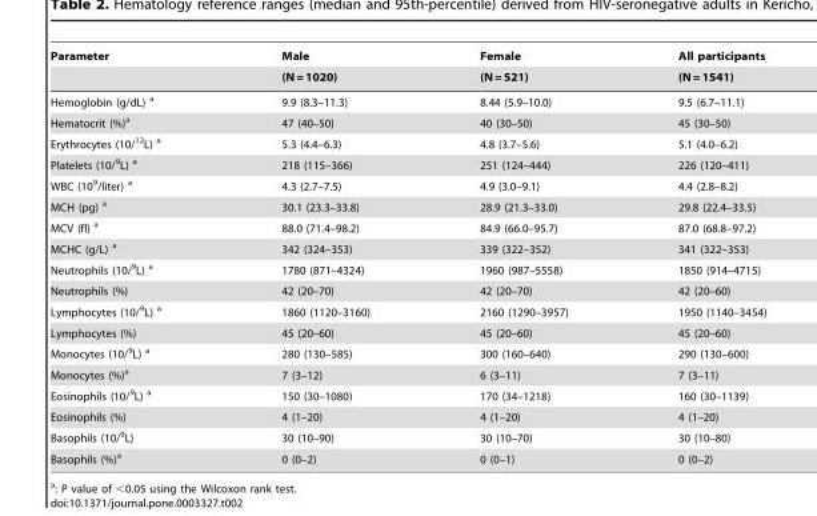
<table><thead><tr><td rowspan="2">Parameter</td><td rowspan="2">Male (N = 1020)</td><td rowspan="2">Female (N = 521)</td><td rowspan="2">All participants (N = 1541)</td></tr><tr></tr></thead><tbody><tr><td>Hemoglobin (g/dL) a</td><td>9.9 (8.3–11.3)</td><td>8.44 (5.9–10.0)</td><td>9.5 (6.7–11.1)</td></tr><tr><td>Hematocrit (%)<sup>a</sup></td><td>47 (40–50)</td><td>40 (30–50)</td><td>45 (30–50)</td></tr><tr><td>Erythrocytes (10/<sup>12</sup>L) a</td><td>5.3 (4.4–6.3)</td><td>4.8 (3.7–5.6)</td><td>5.1 (4.0–6.2)</td></tr><tr><td>Platelets (10/<sup>9</sup>L) a</td><td>218 (115–366)</td><td>251 (124–444)</td><td>226 (120–411)</td></tr><tr><td>WBC (10<sup>9</sup>/liter) a</td><td>4.3 (2.7–7.5)</td><td>4.9 (3.0–9.1)</td><td>4.4 (2.8–8.2)</td></tr><tr><td>MCH (pg) a</td><td>30.1 (23.3–33.8)</td><td>28.9 (21.3–33.0)</td><td>29.8 (22.4–33.5)</td></tr><tr><td>MCV (fl) a</td><td>88.0 (71.4–98.2)</td><td>84.9 (66.0–95.7)</td><td>87.0 (68.8–97.2)</td></tr><tr><td>MCHC (g/L) a</td><td>342 (324–353)</td><td>339 (322–352)</td><td>341 (322–353)</td></tr><tr><td>Neutrophils (10/<sup>9</sup>L) a</td><td>1780 (871–4324)</td><td>1960 (987–5558)</td><td>1850 (914–4715)</td></tr><tr><td>Neutrophils (%)</td><td>42 (20–70)</td><td>42 (20–70)</td><td>42 (20–60)</td></tr><tr><td>Lymphocytes (10/<sup>9</sup>L) a</td><td>1860 (1120–3160)</td><td>2160 (1290–3957)</td><td>1950 (1140–3454)</td></tr><tr><td>Lymphocytes (%)</td><td>45 (20–60)</td><td>45 (20–60)</td><td>45 (20–60)</td></tr><tr><td>Monocytes (10/<sup>9</sup>L) a</td><td>280 (130–585)</td><td>300 (160–640)</td><td>290 (130–600)</td></tr><tr><td>Monocytes (%)<sup>a</sup></td><td>7 (3–12)</td><td>6 (3–11)</td><td>7 (3–11)</td></tr><tr><td>Eosinophils (10/<sup>9</sup>L) a</td><td>150 (30–1080)</td><td>170 (34–1218)</td><td>160 (30–1139)</td></tr><tr><td>Eosinophils (%)</td><td>4 (1–20)</td><td>4 (1–20)</td><td>4 (1–20)</td></tr><tr><td>Basophils (10/<sup>9</sup>L)</td><td>30 (10–90)</td><td>30 (10–70)</td><td>30 (10–80)</td></tr><tr><td>Basophils (%)<sup>a</sup></td><td>0 (0–2)</td><td>0 (0–1)</td><td>0 (0–2)</td></tr></tbody></table>